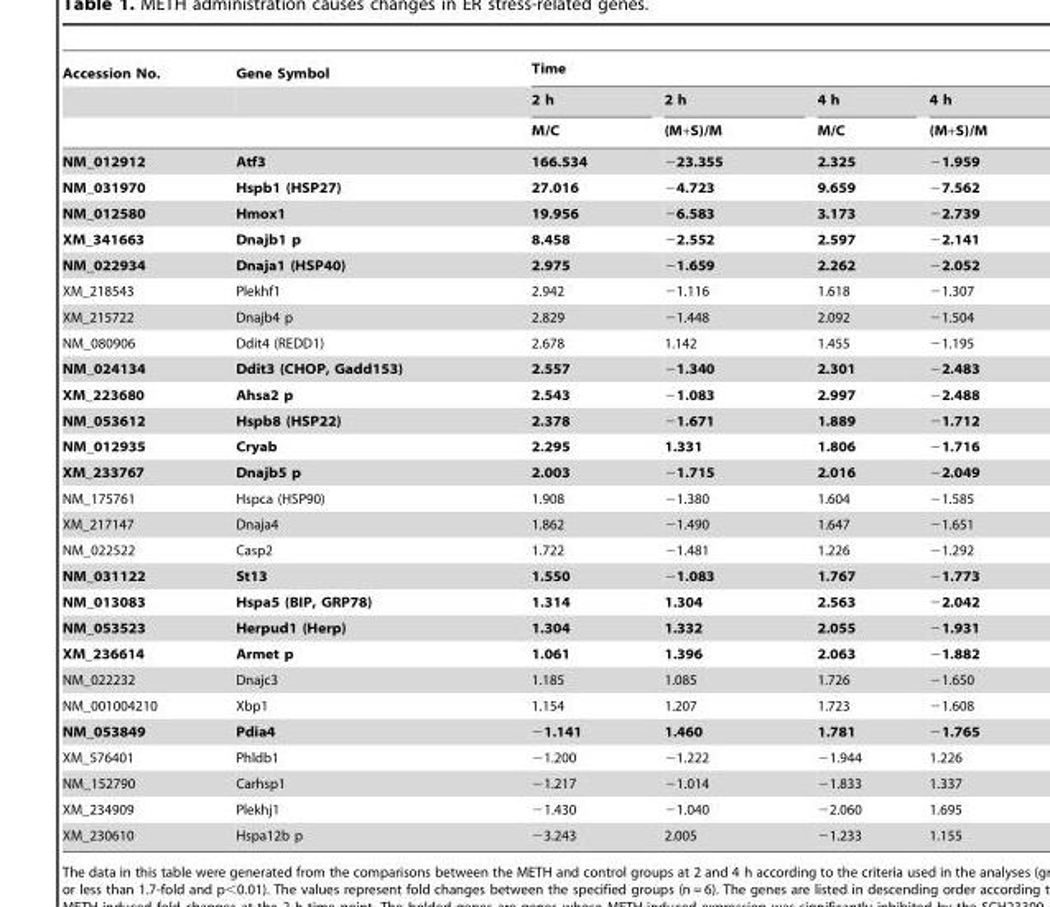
<table><thead><tr><td rowspan="3">Accession No.</td><td rowspan="3">Gene Symbol</td><td colspan="4">Time</td></tr><tr><td rowspan="2">2 h M/C</td><td rowspan="2">2 h (M+S)/M</td><td rowspan="2">4 h M/C</td><td rowspan="2">4 h (M+S)/M</td></tr><tr></tr></thead><tbody><tr><td>NM_012912</td><td>Atf3</td><td>166.534</td><td>−23.355</td><td>2.325</td><td>−1.959</td></tr><tr><td>NM_031970</td><td>Hspb1 (HSP27)</td><td>27.016</td><td>−4.723</td><td>9.659</td><td>−7.562</td></tr><tr><td>NM_012580</td><td>Hmox1</td><td>19.956</td><td>−6.583</td><td>3.173</td><td>−2.739</td></tr><tr><td>XM_341663</td><td>Dnajb1 p</td><td>8.458</td><td>−2.552</td><td>2.597</td><td>−2.141</td></tr><tr><td>NM_022934</td><td>Dnaja1 (HSP40)</td><td>2.975</td><td>−1.659</td><td>2.262</td><td>−2.052</td></tr><tr><td>XM_218543</td><td>Plekhf1</td><td>2.942</td><td>−1.116</td><td>1.618</td><td>−1.307</td></tr><tr><td>XM_215722</td><td>Dnajb4 p</td><td>2.829</td><td>−1.448</td><td>2.092</td><td>−1.504</td></tr><tr><td>NM_080906</td><td>Ddit4 (REDD1)</td><td>2.678</td><td>1.142</td><td>1.455</td><td>−1.195</td></tr><tr><td>NM_024134</td><td>Ddit3 (CHOP, Gadd153)</td><td>2.557</td><td>−1.340</td><td>2.301</td><td>−2.483</td></tr><tr><td>XM_223680</td><td>Ahsa2 p</td><td>2.543</td><td>−1.083</td><td>2.997</td><td>−2.488</td></tr><tr><td>NM_053612</td><td>Hspb8 (HSP22)</td><td>2.378</td><td>−1.671</td><td>1.889</td><td>−1.712</td></tr><tr><td>NM_012935</td><td>Cryab</td><td>2.295</td><td>1.331</td><td>1.806</td><td>−1.716</td></tr><tr><td>XM_233767</td><td>Dnajb5 p</td><td>2.003</td><td>−1.715</td><td>2.016</td><td>−2.049</td></tr><tr><td>NM_175761</td><td>Hspca (HSP90)</td><td>1.908</td><td>−1.380</td><td>1.604</td><td>−1.585</td></tr><tr><td>XM_217147</td><td>Dnaja4</td><td>1.862</td><td>−1.490</td><td>1.647</td><td>−1.651</td></tr><tr><td>NM_022522</td><td>Casp2</td><td>1.722</td><td>−1.481</td><td>1.226</td><td>−1.292</td></tr><tr><td>NM_031122</td><td>St13</td><td>1.550</td><td>−1.083</td><td>1.767</td><td>−1.773</td></tr><tr><td>NM_013083</td><td>Hspa5 (BIP, GRP78)</td><td>1.314</td><td>1.304</td><td>2.563</td><td>−2.042</td></tr><tr><td>NM_053523</td><td>Herpud1 (Herp)</td><td>1.304</td><td>1.332</td><td>2.055</td><td>−1.931</td></tr><tr><td>XM_236614</td><td>Armet p</td><td>1.061</td><td>1.396</td><td>2.063</td><td>−1.882</td></tr><tr><td>NM_022232</td><td>Dnajc3</td><td>1.185</td><td>1.085</td><td>1.726</td><td>−1.650</td></tr><tr><td>NM_001004210</td><td>Xbp1</td><td>1.154</td><td>1.207</td><td>1.723</td><td>−1.608</td></tr><tr><td>NM_053849</td><td>Pdia4</td><td>−1.141</td><td>1.460</td><td>1.781</td><td>−1.765</td></tr><tr><td>XM_576401</td><td>Phldb1</td><td>−1.200</td><td>−1.222</td><td>−1.944</td><td>1.226</td></tr><tr><td>NM_152790</td><td>Carhsp1</td><td>−1.217</td><td>−1.014</td><td>−1.833</td><td>1.337</td></tr><tr><td>XM_234909</td><td>Plekhj1</td><td>−1.430</td><td>−1.040</td><td>−2.060</td><td>1.695</td></tr><tr><td>XM_230610</td><td>Hspa12b p</td><td>−3.243</td><td>2.005</td><td>−1.233</td><td>1.155</td></tr></tbody></table>